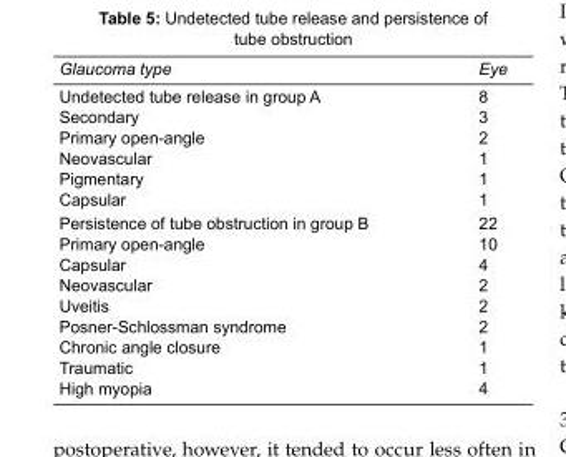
<table><tbody><tr><td>Glaucoma type</td><td>Eye</td></tr><tr><td>Undetected tube release in group A</td><td>8</td></tr><tr><td>Secondary</td><td>3</td></tr><tr><td>Primary open-angle</td><td>2</td></tr><tr><td>Neovascular</td><td>1</td></tr><tr><td>Pigmentary</td><td>1</td></tr><tr><td>Capsular</td><td>1</td></tr><tr><td>Persistence of tube obstruction in group B</td><td>22</td></tr><tr><td>Primary open-angle</td><td>10</td></tr><tr><td>Capsular</td><td>4</td></tr><tr><td>Neovascular</td><td>2</td></tr><tr><td>Uveitis</td><td>2</td></tr><tr><td>Posner-Schlossman syndrome</td><td>2</td></tr><tr><td>Chronic angle closure</td><td>1</td></tr><tr><td>Traumatic</td><td>1</td></tr><tr><td>High myopia</td><td>4</td></tr></tbody></table>